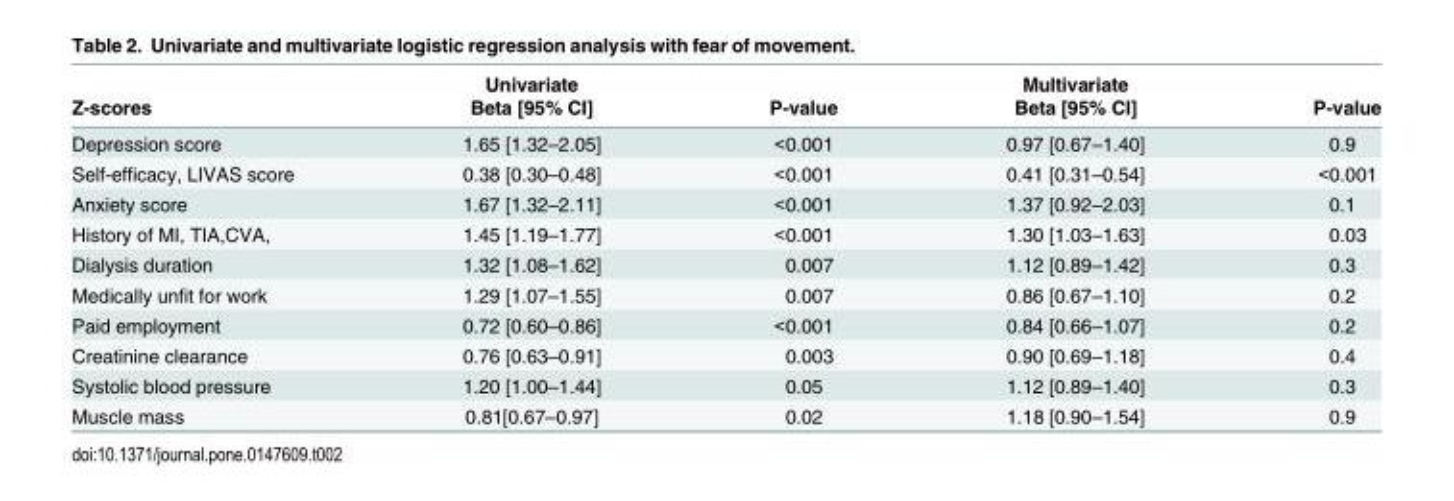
<table><thead><tr><td rowspan="2">Z-scores</td><td rowspan="2">Univariate Beta [95% CI]</td><td rowspan="2">P-value</td><td rowspan="2">Multivariate Beta [95% CI]</td><td rowspan="2">P-value</td></tr><tr></tr></thead><tbody><tr><td>Depression score</td><td>1.65 [1.32–2.05]</td><td>&lt;0.001</td><td>0.97 [0.67–1.40]</td><td>0.9</td></tr><tr><td>Self-efficacy, LIVAS score</td><td>0.38 [0.30–0.48]</td><td>&lt;0.001</td><td>0.41 [0.31–0.54]</td><td>&lt;0.001</td></tr><tr><td>Anxiety score</td><td>1.67 [1.32–2.11]</td><td>&lt;0.001</td><td>1.37 [0.92–2.03]</td><td>0.1</td></tr><tr><td>History of MI, TIA,CVA,</td><td>1.45 [1.19–1.77]</td><td>&lt;0.001</td><td>1.30 [1.03–1.63]</td><td>0.03</td></tr><tr><td>Dialysis duration</td><td>1.32 [1.08–1.62]</td><td>0.007</td><td>1.12 [0.89–1.42]</td><td>0.3</td></tr><tr><td>Medically unfit for work</td><td>1.29 [1.07–1.55]</td><td>0.007</td><td>0.86 [0.67–1.10]</td><td>0.2</td></tr><tr><td>Paid employment</td><td>0.72 [0.60–0.86]</td><td>&lt;0.001</td><td>0.84 [0.66–1.07]</td><td>0.2</td></tr><tr><td>Creatinine clearance</td><td>0.76 [0.63–0.91]</td><td>0.003</td><td>0.90 [0.69–1.18]</td><td>0.4</td></tr><tr><td>Systolic blood pressure</td><td>1.20 [1.00–1.44]</td><td>0.05</td><td>1.12 [0.89–1.40]</td><td>0.3</td></tr><tr><td>Muscle mass</td><td>0.81[0.67–0.97]</td><td>0.02</td><td>1.18 [0.90–1.54]</td><td>0.9</td></tr></tbody></table>